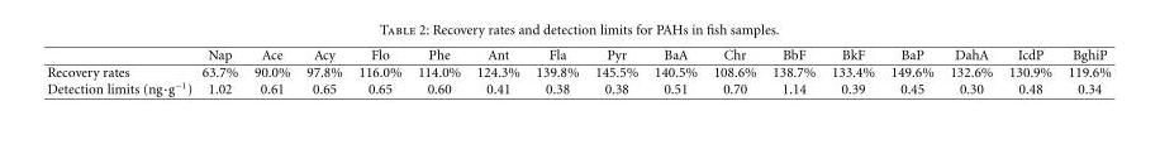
<table><thead><tr><td></td><td>Nap</td><td>Ace</td><td>Acy</td><td>Flo</td><td>Phe</td><td>Ant</td><td>Fla</td><td>Pyr</td><td>BaA</td><td>Chr</td><td>BbF</td><td>BkF</td><td>BaP</td><td>DahA</td><td>IcdP</td><td>BghiP</td></tr></thead><tbody><tr><td>Recovery rates</td><td>63.7%</td><td>90.0%</td><td>97.8%</td><td>116.0%</td><td>114.0%</td><td>124.3%</td><td>139.8%</td><td>145.5%</td><td>140.5%</td><td>108.6%</td><td>138.7%</td><td>133.4%</td><td>149.6%</td><td>132.6%</td><td>130.9%</td><td>119.6%</td></tr><tr><td>Detection limits (ng·g<sup>−1</sup>)</td><td>1.02</td><td>0.61</td><td>0.65</td><td>0.65</td><td>0.60</td><td>0.41</td><td>0.38</td><td>0.38</td><td>0.51</td><td>0.70</td><td>1.14</td><td>0.39</td><td>0.45</td><td>0.30</td><td>0.48</td><td>0.34</td></tr></tbody></table>